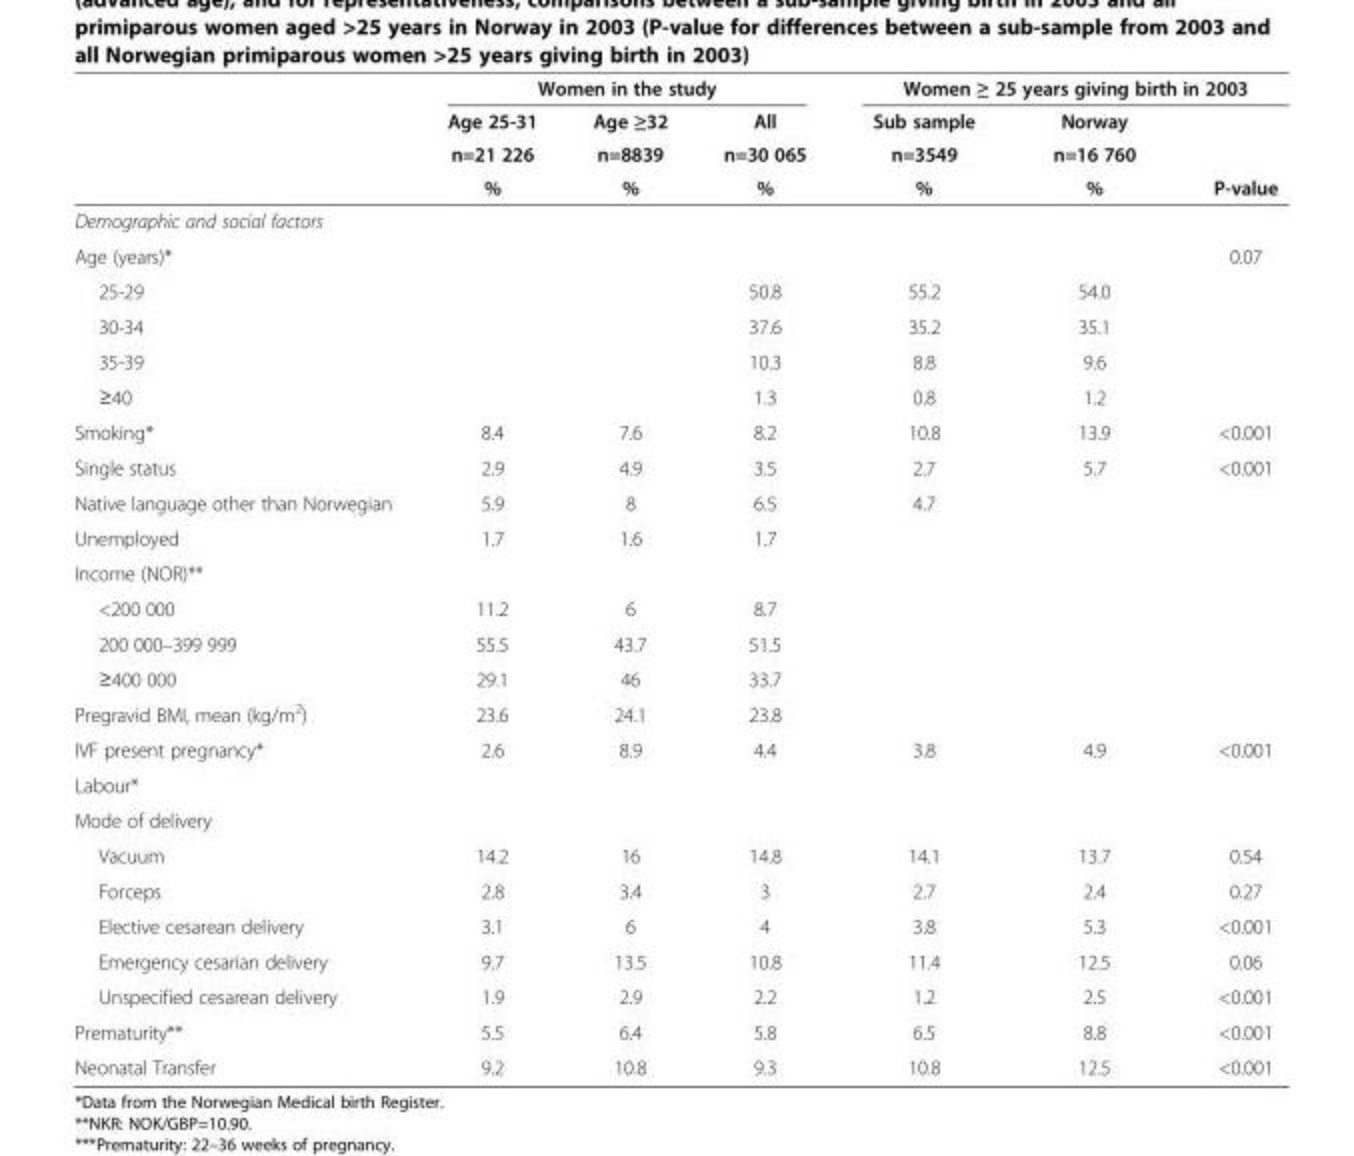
<table><thead><tr><td rowspan="4"></td><td colspan="3">Women in the study</td><td colspan="3">Women ≥ 25 years giving birth in 2003</td></tr><tr><td rowspan="3">Age 25-31 n=21 226 %</td><td rowspan="3">Age ≥32 n=8839 %</td><td rowspan="3">All n=30 065 %</td><td rowspan="3">Sub sample n=3549 %</td><td rowspan="3">Norway n=16 760 %</td><td rowspan="3">P-value</td></tr><tr></tr><tr></tr></thead><tbody><tr><td colspan="7">Demographic and social factors</td></tr><tr><td>Age (years)*</td><td></td><td></td><td></td><td></td><td></td><td>0.07</td></tr><tr><td>25-29</td><td></td><td></td><td>50.8</td><td>55.2</td><td>54.0</td><td></td></tr><tr><td>30-34</td><td></td><td></td><td>37.6</td><td>35.2</td><td>35.1</td><td></td></tr><tr><td>35-39</td><td></td><td></td><td>10.3</td><td>8.8</td><td>9.6</td><td></td></tr><tr><td>≥40</td><td></td><td></td><td>1.3</td><td>0.8</td><td>1.2</td><td></td></tr><tr><td>Smoking*</td><td>8.4</td><td>7.6</td><td>8.2</td><td>10.8</td><td>13.9</td><td>&lt;0.001</td></tr><tr><td>Single status</td><td>2.9</td><td>4.9</td><td>3.5</td><td>2.7</td><td>5.7</td><td>&lt;0.001</td></tr><tr><td>Native language other than Norwegian</td><td>5.9</td><td>8</td><td>6.5</td><td>4.7</td><td></td><td></td></tr><tr><td>Unemployed</td><td>1.7</td><td>1.6</td><td>1.7</td><td></td><td></td><td></td></tr><tr><td colspan="7">Income (NOR)**</td></tr><tr><td>&lt;200 000</td><td>11.2</td><td>6</td><td>8.7</td><td></td><td></td><td></td></tr><tr><td>200 000–399 999</td><td>55.5</td><td>43.7</td><td>51.5</td><td></td><td></td><td></td></tr><tr><td>≥400 000</td><td>29.1</td><td>46</td><td>33.7</td><td></td><td></td><td></td></tr><tr><td>Pregravid BMI, mean (kg/m<sup>2</sup>)</td><td>23.6</td><td>24.1</td><td>23.8</td><td></td><td></td><td></td></tr><tr><td>IVF present pregnancy*</td><td>2.6</td><td>8.9</td><td>4.4</td><td>3.8</td><td>4.9</td><td>&lt;0.001</td></tr><tr><td colspan="7">Labour*</td></tr><tr><td colspan="7">Mode of delivery</td></tr><tr><td>Vacuum</td><td>14.2</td><td>16</td><td>14.8</td><td>14.1</td><td>13.7</td><td>0.54</td></tr><tr><td>Forceps</td><td>2.8</td><td>3.4</td><td>3</td><td>2.7</td><td>2.4</td><td>0.27</td></tr><tr><td>Elective cesarean delivery</td><td>3.1</td><td>6</td><td>4</td><td>3.8</td><td>5.3</td><td>&lt;0.001</td></tr><tr><td>Emergency cesarian delivery</td><td>9.7</td><td>13.5</td><td>10.8</td><td>11.4</td><td>12.5</td><td>0.06</td></tr><tr><td>Unspecified cesarean delivery</td><td>1.9</td><td>2.9</td><td>2.2</td><td>1.2</td><td>2.5</td><td>&lt;0.001</td></tr><tr><td>Prematurity**</td><td>5.5</td><td>6.4</td><td>5.8</td><td>6.5</td><td>8.8</td><td>&lt;0.001</td></tr><tr><td>Neonatal Transfer</td><td>9.2</td><td>10.8</td><td>9.3</td><td>10.8</td><td>12.5</td><td>&lt;0.001</td></tr></tbody></table>